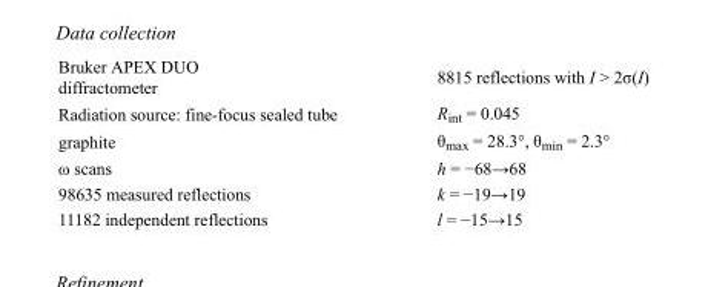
<table><tbody><tr><td>Bruker APEX DUO diffractometer</td><td>8815 reflections with I &gt; 2σ(I)</td></tr><tr><td>Radiation source: fine-focus sealed tube</td><td>R<sub>int</sub> = 0.045</td></tr><tr><td>graphite</td><td>θ<sub>max</sub> = 28.3°, θ<sub>min</sub> = 2.3°</td></tr><tr><td>ω scans</td><td>h = −68→68</td></tr><tr><td>98635 measured reflections</td><td>k = −19→19</td></tr><tr><td>11182 independent reflections</td><td>l = −15→15</td></tr></tbody></table>